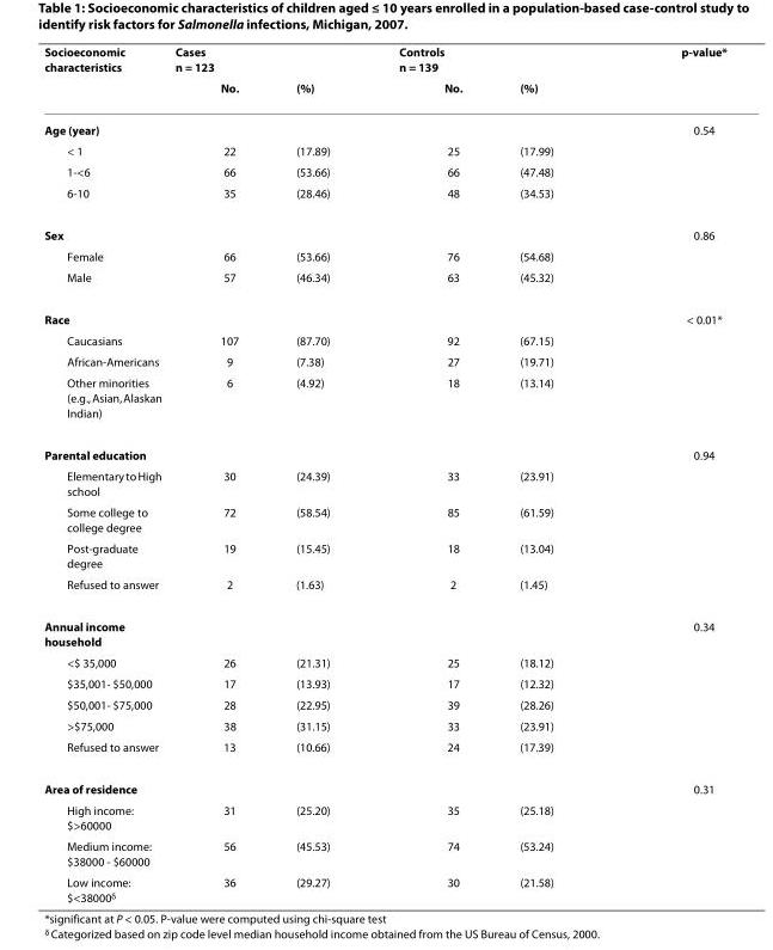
<table><thead><tr><td rowspan="2">Socioeconomic characteristics</td><td colspan="2">Cases n = 123</td><td colspan="2">Controls n = 139</td><td rowspan="2">p-value*</td></tr><tr><td>No.</td><td>(%)</td><td>No.</td><td>(%)</td></tr></thead><tbody><tr><td>Age (year)</td><td></td><td></td><td></td><td></td><td>0.54</td></tr><tr><td>&lt; 1</td><td>22</td><td>(17.89)</td><td>25</td><td>(17.99)</td><td></td></tr><tr><td>1-&lt;6</td><td>66</td><td>(53.66)</td><td>66</td><td>(47.48)</td><td></td></tr><tr><td>6-10</td><td>35</td><td>(28.46)</td><td>48</td><td>(34.53)</td><td></td></tr><tr><td>Sex</td><td></td><td></td><td></td><td></td><td>0.86</td></tr><tr><td>Female</td><td>66</td><td>(53.66)</td><td>76</td><td>(54.68)</td><td></td></tr><tr><td>Male</td><td>57</td><td>(46.34)</td><td>63</td><td>(45.32)</td><td></td></tr><tr><td>Race</td><td></td><td></td><td></td><td></td><td>&lt; 0.01*</td></tr><tr><td>Caucasians</td><td>107</td><td>(87.70)</td><td>92</td><td>(67.15)</td><td></td></tr><tr><td>African-Americans</td><td>9</td><td>(7.38)</td><td>27</td><td>(19.71)</td><td></td></tr><tr><td>Other minorities (e.g., Asian, Alaskan Indian)</td><td>6</td><td>(4.92)</td><td>18</td><td>(13.14)</td><td></td></tr><tr><td>Parental education</td><td></td><td></td><td></td><td></td><td>0.94</td></tr><tr><td>Elementary to High school</td><td>30</td><td>(24.39)</td><td>33</td><td>(23.91)</td><td></td></tr><tr><td>Some college to college degree</td><td>72</td><td>(58.54)</td><td>85</td><td>(61.59)</td><td></td></tr><tr><td>Post-graduate degree</td><td>19</td><td>(15.45)</td><td>18</td><td>(13.04)</td><td></td></tr><tr><td>Refused to answer</td><td>2</td><td>(1.63)</td><td>2</td><td>(1.45)</td><td></td></tr><tr><td>Annual income household</td><td></td><td></td><td></td><td></td><td>0.34</td></tr><tr><td>&lt;$ 35,000</td><td>26</td><td>(21.31)</td><td>25</td><td>(18.12)</td><td></td></tr><tr><td>$35,001- $50,000</td><td>17</td><td>(13.93)</td><td>17</td><td>(12.32)</td><td></td></tr><tr><td>$50,001- $75,000</td><td>28</td><td>(22.95)</td><td>39</td><td>(28.26)</td><td></td></tr><tr><td>&gt;$75,000</td><td>38</td><td>(31.15)</td><td>33</td><td>(23.91)</td><td></td></tr><tr><td>Refused to answer</td><td>13</td><td>(10.66)</td><td>24</td><td>(17.39)</td><td></td></tr><tr><td>Area of residence</td><td></td><td></td><td></td><td></td><td>0.31</td></tr><tr><td>High income: $&gt;60000</td><td>31</td><td>(25.20)</td><td>35</td><td>(25.18)</td><td></td></tr><tr><td>Medium income: $38000 - $60000</td><td>56</td><td>(45.53)</td><td>74</td><td>(53.24)</td><td></td></tr><tr><td>Low income: $&lt;38000<sup>δ</sup></td><td>36</td><td>(29.27)</td><td>30</td><td>(21.58)</td><td></td></tr></tbody></table>